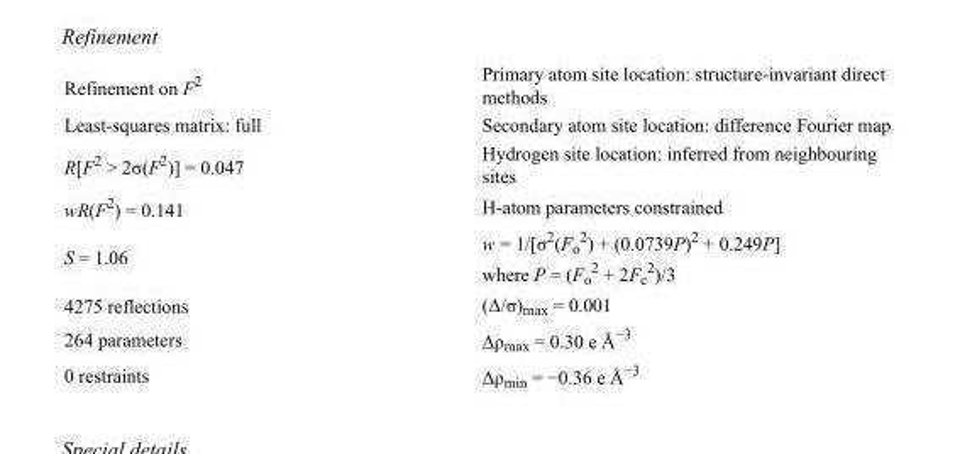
<table><tbody><tr><td>Refinement on F<sup>2</sup></td><td>Primary atom site location: structure-invariant direct methods</td></tr><tr><td>Least-squares matrix: full</td><td>Secondary atom site location: difference Fourier map</td></tr><tr><td>R[F<sup>2</sup> &gt; 2σ(F<sup>2</sup>)] = 0.047</td><td>Hydrogen site location: inferred from neighbouring sites</td></tr><tr><td>wR(F<sup>2</sup>) = 0.141</td><td>H-atom parameters constrained</td></tr><tr><td>S = 1.06</td><td>w = 1/[σ<sup>2</sup>(F<sub>o</sub> <sup>2</sup>) + (0.0739P)<sup>2</sup> + 0.249P] where P = (F<sub>o</sub> <sup>2</sup> + 2F<sub>c</sub> <sup>2</sup>)/3</td></tr><tr><td>4275 reflections</td><td>(Δ/σ)<sub>max</sub> = 0.001</td></tr><tr><td>264 parameters</td><td>Δρ<sub>max</sub> = 0.30 e Å<sup>−3</sup></td></tr><tr><td>0 restraints</td><td>Δρ<sub>min</sub> = −0.36 e Å<sup>−3</sup></td></tr></tbody></table>